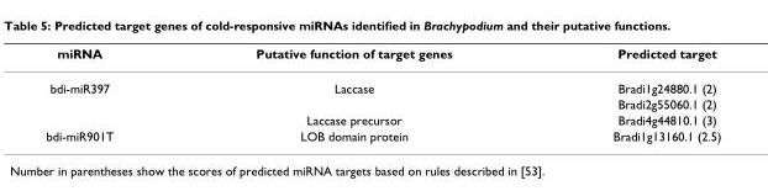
<table><thead><tr><td>miRNA</td><td>Putative function of target genes</td><td>Predicted target</td></tr></thead><tbody><tr><td rowspan="3">bdi-miR397</td><td>Laccase</td><td>Bradi1g24880.1 (2)</td></tr><tr><td></td><td>Bradi2g55060.1 (2)</td></tr><tr><td>Laccase precursor</td><td>Bradi4g44810.1 (3)</td></tr><tr><td>bdi-miR901T</td><td>LOB domain protein</td><td>Bradi1g13160.1 (2.5)</td></tr></tbody></table>